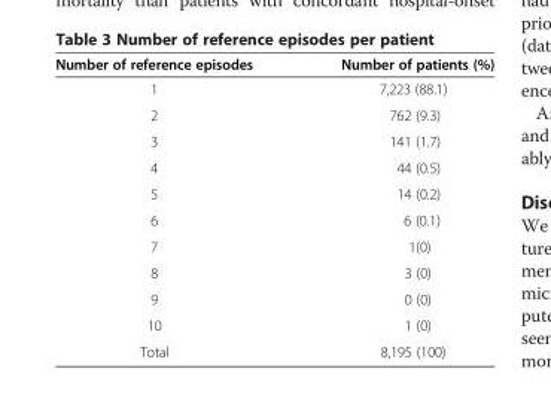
<table><thead><tr><td>Number of reference episodes</td><td>Number of patients (%)</td></tr></thead><tbody><tr><td>1</td><td>7,223 (88.1)</td></tr><tr><td>2</td><td>762 (9.3)</td></tr><tr><td>3</td><td>141 (1.7)</td></tr><tr><td>4</td><td>44 (0.5)</td></tr><tr><td>5</td><td>14 (0.2)</td></tr><tr><td>6</td><td>6 (0.1)</td></tr><tr><td>7</td><td>1(0)</td></tr><tr><td>8</td><td>3 (0)</td></tr><tr><td>9</td><td>0 (0)</td></tr><tr><td>10</td><td>1 (0)</td></tr><tr><td>Total</td><td>8,195 (100)</td></tr></tbody></table>